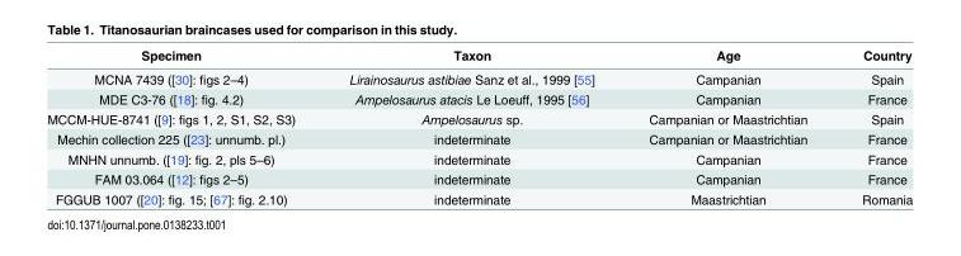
<table><thead><tr><td>Specimen</td><td>Taxon</td><td>Age</td><td>Country</td></tr></thead><tbody><tr><td>MCNA 7439 ([30]: figs 2–4)</td><td>Lirainosaurus astibiae Sanz et al., 1999 [55]</td><td>Campanian</td><td>Spain</td></tr><tr><td>MDE C3-76 ([18]: fig. 4.2)</td><td>Ampelosaurus atacis Le Loeuff, 1995 [56]</td><td>Campanian</td><td>France</td></tr><tr><td>MCCM-HUE-8741 ([9]: figs 1, 2, S1, S2, S3)</td><td>Ampelosaurus sp.</td><td>Campanian or Maastrichtian</td><td>Spain</td></tr><tr><td>Mechin collection 225 ([23]: unnumb. pl.)</td><td>indeterminate</td><td>Campanian or Maastrichtian</td><td>France</td></tr><tr><td>MNHN unnumb. ([19]: fig. 2, pls 5–6)</td><td>indeterminate</td><td>Campanian</td><td>France</td></tr><tr><td>FAM 03.064 ([12]: figs 2–5)</td><td>indeterminate</td><td>Campanian</td><td>France</td></tr><tr><td>FGGUB 1007 ([20]: fig. 15; [67]: fig. 2.10)</td><td>indeterminate</td><td>Maastrichtian</td><td>Romania</td></tr></tbody></table>